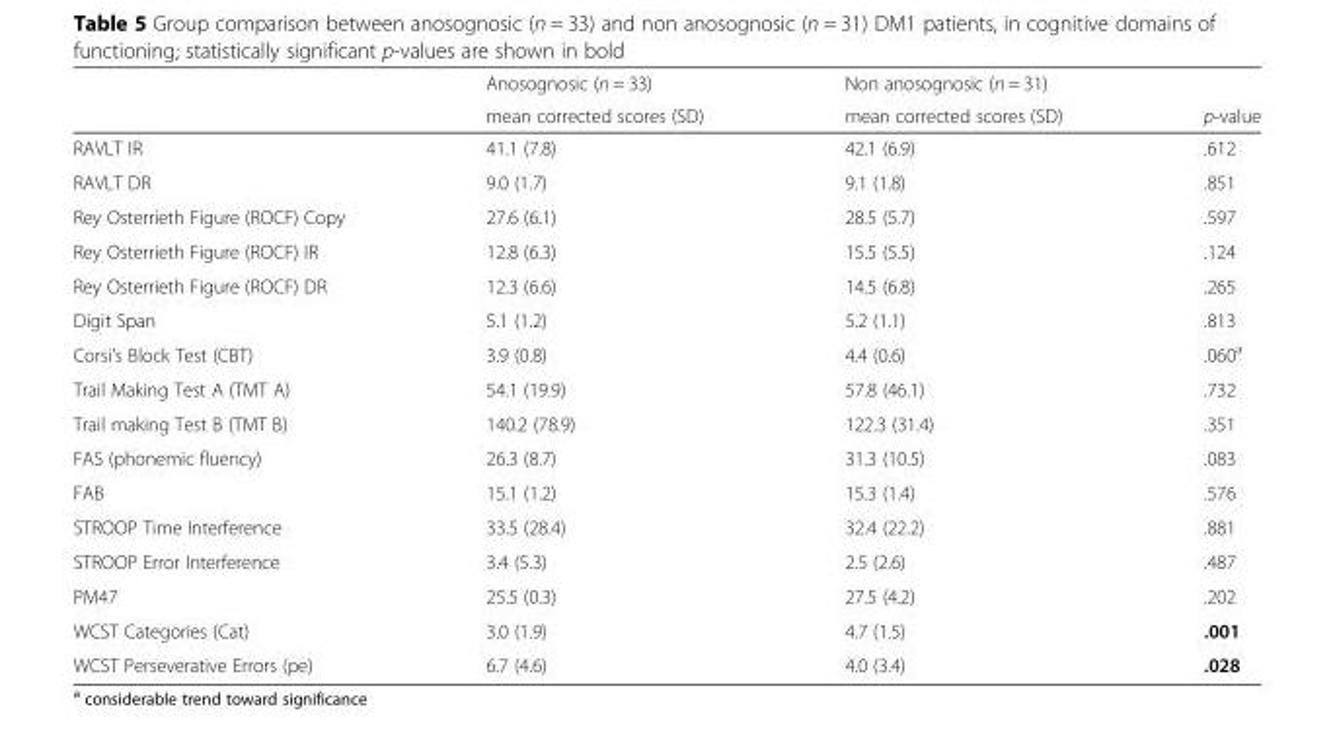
<table><thead><tr><td rowspan="2"></td><td rowspan="2">Anosognosic (n = 33) mean corrected scores (SD)</td><td rowspan="2">Non anosognosic (n = 31) mean corrected scores (SD)</td><td rowspan="2">p-value</td></tr><tr></tr></thead><tbody><tr><td>RAVLT IR</td><td>41.1 (7.8)</td><td>42.1 (6.9)</td><td>.612</td></tr><tr><td>RAVLT DR</td><td>9.0 (1.7)</td><td>9.1 (1.8)</td><td>.851</td></tr><tr><td>Rey Osterrieth Figure (ROCF) Copy</td><td>27.6 (6.1)</td><td>28.5 (5.7)</td><td>.597</td></tr><tr><td>Rey Osterrieth Figure (ROCF) IR</td><td>12.8 (6.3)</td><td>15.5 (5.5)</td><td>.124</td></tr><tr><td>Rey Osterrieth Figure (ROCF) DR</td><td>12.3 (6.6)</td><td>14.5 (6.8)</td><td>.265</td></tr><tr><td>Digit Span</td><td>5.1 (1.2)</td><td>5.2 (1.1)</td><td>.813</td></tr><tr><td>Corsi’s Block Test (CBT)</td><td>3.9 (0.8)</td><td>4.4 (0.6)</td><td>.060<sup>a</sup></td></tr><tr><td>Trail Making Test A (TMT A)</td><td>54.1 (19.9)</td><td>57.8 (46.1)</td><td>.732</td></tr><tr><td>Trail making Test B (TMT B)</td><td>140.2 (78.9)</td><td>122.3 (31.4)</td><td>.351</td></tr><tr><td>FAS (phonemic fluency)</td><td>26.3 (8.7)</td><td>31.3 (10.5)</td><td>.083</td></tr><tr><td>FAB</td><td>15.1 (1.2)</td><td>15.3 (1.4)</td><td>.576</td></tr><tr><td>STROOP Time Interference</td><td>33.5 (28.4)</td><td>32.4 (22.2)</td><td>.881</td></tr><tr><td>STROOP Error Interference</td><td>3.4 (5.3)</td><td>2.5 (2.6)</td><td>.487</td></tr><tr><td>PM47</td><td>25.5 (0.3)</td><td>27.5 (4.2)</td><td>.202</td></tr><tr><td>WCST Categories (Cat)</td><td>3.0 (1.9)</td><td>4.7 (1.5)</td><td>.001</td></tr><tr><td>WCST Perseverative Errors (pe)</td><td>6.7 (4.6)</td><td>4.0 (3.4)</td><td>.028</td></tr></tbody></table>